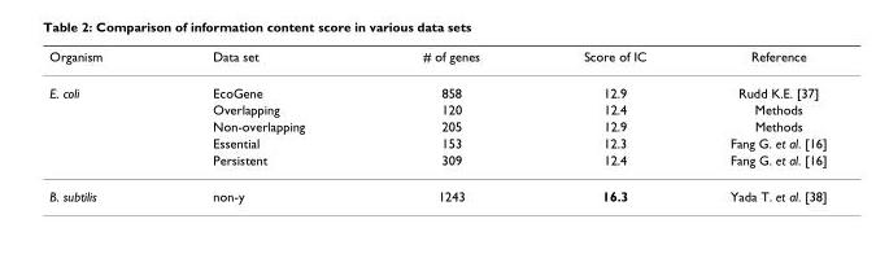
<table><thead><tr><td>Organism</td><td>Data set</td><td># of genes</td><td>Score of IC</td><td>Reference</td></tr></thead><tbody><tr><td rowspan="5">E. coli</td><td>EcoGene</td><td>858</td><td>12.9</td><td>Rudd K.E. [37]</td></tr><tr><td>Overlapping</td><td>120</td><td>12.4</td><td>Methods</td></tr><tr><td>Non-overlapping</td><td>205</td><td>12.9</td><td>Methods</td></tr><tr><td>Essential</td><td>153</td><td>12.3</td><td>Fang G. et al. [16]</td></tr><tr><td>Persistent</td><td>309</td><td>12.4</td><td>Fang G. et al. [16]</td></tr><tr><td>B. subtilis</td><td>non-y</td><td>1243</td><td>16.3</td><td>Yada T. et al. [38]</td></tr></tbody></table>